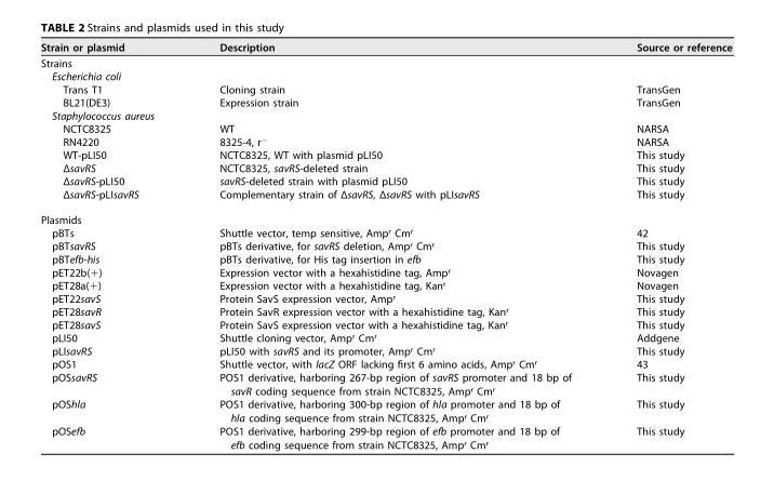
<table><thead><tr><td>Strain or plasmid</td><td>Description</td><td>Source or reference</td></tr></thead><tbody><tr><td colspan="3">Strains</td></tr><tr><td colspan="3">Escherichia coli</td></tr><tr><td>Trans T1</td><td>Cloning strain</td><td>TransGen</td></tr><tr><td>BL21(DE3)</td><td>Expression strain</td><td>TransGen</td></tr><tr><td colspan="3">Staphylococcus aureus</td></tr><tr><td>NCTC8325</td><td>WT</td><td>NARSA</td></tr><tr><td>RN4220</td><td>8325-4, r<sup>−</sup></td><td>NARSA</td></tr><tr><td>WT-pLI50</td><td>NCTC8325, WT with plasmid pLI50</td><td>This study</td></tr><tr><td>ΔsavRS</td><td>NCTC8325, savRS-deleted strain</td><td>This study</td></tr><tr><td>ΔsavRS-pLI50</td><td>savRS-deleted strain with plasmid pLI50</td><td>This study</td></tr><tr><td>ΔsavRS-pLIsavRS</td><td>Complementary strain of ΔsavRS, ΔsavRS with pLIsavRS</td><td>This study</td></tr><tr><td colspan="3">Plasmids</td></tr><tr><td>pBTs</td><td>Shuttle vector, temp sensitive, Amp<sup>r</sup> Cm<sup>r</sup></td><td>42</td></tr><tr><td>pBTsavRS</td><td>pBTs derivative, for savRS deletion, Amp<sup>r</sup> Cm<sup>r</sup></td><td>This study</td></tr><tr><td>pBTefb-his</td><td>pBTs derivative, for His tag insertion in efb</td><td>This study</td></tr><tr><td>pET22b(+)</td><td>Expression vector with a hexahistidine tag, Amp<sup>r</sup></td><td>Novagen</td></tr><tr><td>pET28a(+)</td><td>Expression vector with a hexahistidine tag, Kan<sup>r</sup></td><td>Novagen</td></tr><tr><td>pET22savS</td><td>Protein SavS expression vector, Amp<sup>r</sup></td><td>This study</td></tr><tr><td>pET28savR</td><td>Protein SavR expression vector with a hexahistidine tag, Kan<sup>r</sup></td><td>This study</td></tr><tr><td>pET28savS</td><td>Protein SavS expression vector with a hexahistidine tag, Kan<sup>r</sup></td><td>This study</td></tr><tr><td>pLI50</td><td>Shuttle cloning vector, Amp<sup>r</sup> Cm<sup>r</sup></td><td>Addgene</td></tr><tr><td>pLIsavRS</td><td>pLI50 with savRS and its promoter, Amp<sup>r</sup> Cm<sup>r</sup></td><td>This study</td></tr><tr><td>pOS1</td><td>Shuttle vector, with lacZ ORF lacking first 6 amino acids, Amp<sup>r</sup> Cm<sup>r</sup></td><td>43</td></tr><tr><td>pOSsavRS</td><td>POS1 derivative, harboring 267-bp region of savRS promoter and 18 bp of savR coding sequence from strain NCTC8325, Amp<sup>r</sup> Cm<sup>r</sup></td><td>This study</td></tr><tr><td>pOShla</td><td>POS1 derivative, harboring 300-bp region of hla promoter and 18 bp of hla coding sequence from strain NCTC8325, Amp<sup>r</sup> Cm<sup>r</sup></td><td>This study</td></tr><tr><td>pOSefb</td><td>POS1 derivative, harboring 299-bp region of efb promoter and 18 bp of efb coding sequence from strain NCTC8325, Amp<sup>r</sup> Cm<sup>r</sup></td><td>This study</td></tr></tbody></table>